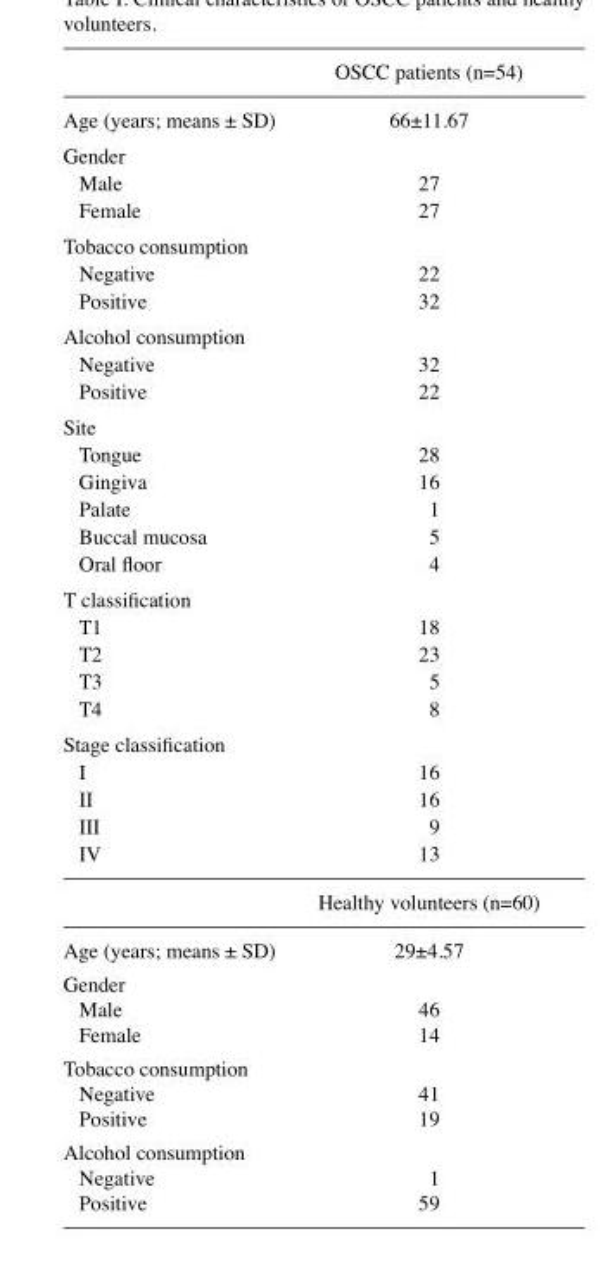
<table><thead><tr><td></td><td>OSCC patients (n=54)</td></tr></thead><tbody><tr><td>Age (years; means ± SD)</td><td>66±11.67</td></tr><tr><td colspan="2">Gender</td></tr><tr><td>Male</td><td>27</td></tr><tr><td>Female</td><td>27</td></tr><tr><td colspan="2">Tobacco consumption</td></tr><tr><td>Negative</td><td>22</td></tr><tr><td>Positive</td><td>32</td></tr><tr><td colspan="2">Alcohol consumption</td></tr><tr><td>Negative</td><td>32</td></tr><tr><td>Positive</td><td>22</td></tr><tr><td colspan="2">Site</td></tr><tr><td>Tongue</td><td>28</td></tr><tr><td>Gingiva</td><td>16</td></tr><tr><td>Palate</td><td>1</td></tr><tr><td>Buccal mucosa</td><td>5</td></tr><tr><td>Oral floor</td><td>4</td></tr><tr><td colspan="2">T classification</td></tr><tr><td>T1</td><td>18</td></tr><tr><td>T2</td><td>23</td></tr><tr><td>T3</td><td>5</td></tr><tr><td>T4</td><td>8</td></tr><tr><td colspan="2">Stage classification</td></tr><tr><td>Ⅰ</td><td>16</td></tr><tr><td>Ⅱ</td><td>16</td></tr><tr><td>Ⅲ</td><td>9</td></tr><tr><td rowspan="2">Ⅳ</td><td>13</td></tr><tr><td>Healthy volunteers (n=60)</td></tr><tr><td>Age (years; means ± SD)</td><td>29±4.57</td></tr><tr><td colspan="2">Gender</td></tr><tr><td>Male</td><td>46</td></tr><tr><td>Female</td><td>14</td></tr><tr><td colspan="2">Tobacco consumption</td></tr><tr><td>Negative</td><td>41</td></tr><tr><td>Positive</td><td>19</td></tr><tr><td colspan="2">Alcohol consumption</td></tr><tr><td>Negative</td><td>1</td></tr><tr><td>Positive</td><td>59</td></tr></tbody></table>